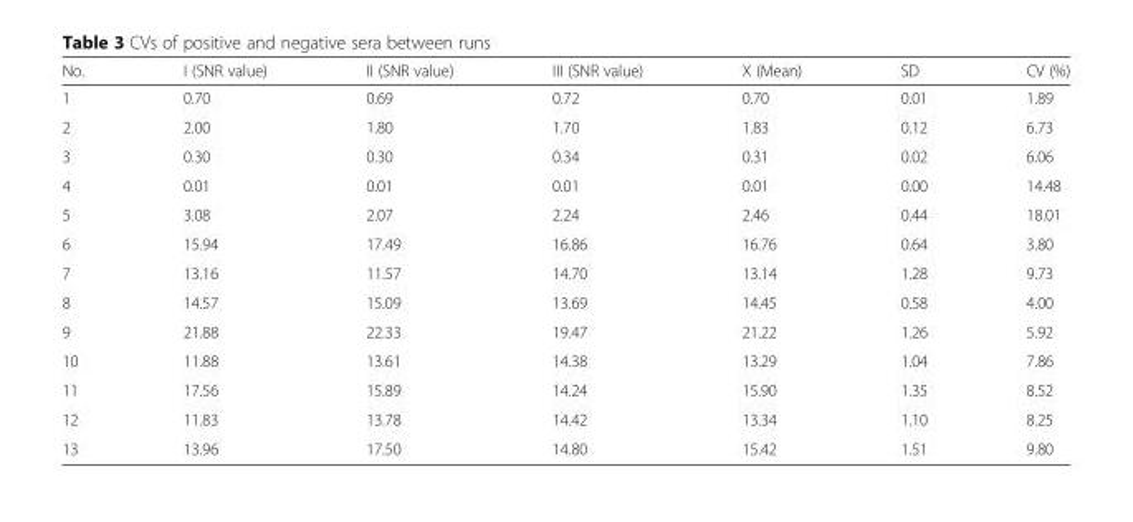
<table><thead><tr><td>No.</td><td>I (SNR value)</td><td>II (SNR value)</td><td>III (SNR value)</td><td>X (Mean)</td><td>SD</td><td>CV (%)</td></tr></thead><tbody><tr><td>1</td><td>0.70</td><td>0.69</td><td>0.72</td><td>0.70</td><td>0.01</td><td>1.89</td></tr><tr><td>2</td><td>2.00</td><td>1.80</td><td>1.70</td><td>1.83</td><td>0.12</td><td>6.73</td></tr><tr><td>3</td><td>0.30</td><td>0.30</td><td>0.34</td><td>0.31</td><td>0.02</td><td>6.06</td></tr><tr><td>4</td><td>0.01</td><td>0.01</td><td>0.01</td><td>0.01</td><td>0.00</td><td>14.48</td></tr><tr><td>5</td><td>3.08</td><td>2.07</td><td>2.24</td><td>2.46</td><td>0.44</td><td>18.01</td></tr><tr><td>6</td><td>15.94</td><td>17.49</td><td>16.86</td><td>16.76</td><td>0.64</td><td>3.80</td></tr><tr><td>7</td><td>13.16</td><td>11.57</td><td>14.70</td><td>13.14</td><td>1.28</td><td>9.73</td></tr><tr><td>8</td><td>14.57</td><td>15.09</td><td>13.69</td><td>14.45</td><td>0.58</td><td>4.00</td></tr><tr><td>9</td><td>21.88</td><td>22.33</td><td>19.47</td><td>21.22</td><td>1.26</td><td>5.92</td></tr><tr><td>10</td><td>11.88</td><td>13.61</td><td>14.38</td><td>13.29</td><td>1.04</td><td>7.86</td></tr><tr><td>11</td><td>17.56</td><td>15.89</td><td>14.24</td><td>15.90</td><td>1.35</td><td>8.52</td></tr><tr><td>12</td><td>11.83</td><td>13.78</td><td>14.42</td><td>13.34</td><td>1.10</td><td>8.25</td></tr><tr><td>13</td><td>13.96</td><td>17.50</td><td>14.80</td><td>15.42</td><td>1.51</td><td>9.80</td></tr></tbody></table>